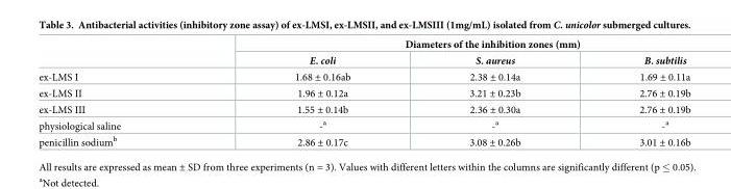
<table><thead><tr><td rowspan="2"></td><td colspan="3">Diameters of the inhibition zones (mm)</td></tr><tr><td>E. coli</td><td>S. aureus</td><td>B. subtilis</td></tr></thead><tbody><tr><td>ex-LMS I</td><td>1.68 ± 0.16ab</td><td>2.38 ± 0.14a</td><td>1.69 ± 0.11a</td></tr><tr><td>ex-LMS II</td><td>1.96 ± 0.12a</td><td>3.21 ± 0.23b</td><td>2.76 ± 0.19b</td></tr><tr><td>ex-LMS III</td><td>1.55 ± 0.14b</td><td>2.36 ± 0.30a</td><td>2.76 ± 0.19b</td></tr><tr><td>physiological saline</td><td>-<sup>a</sup></td><td>-<sup>a</sup></td><td>-<sup>a</sup></td></tr><tr><td>penicillin sodium<sup>b</sup></td><td>2.86 ± 0.17c</td><td>3.08 ± 0.26b</td><td>3.01 ± 0.16b</td></tr></tbody></table>